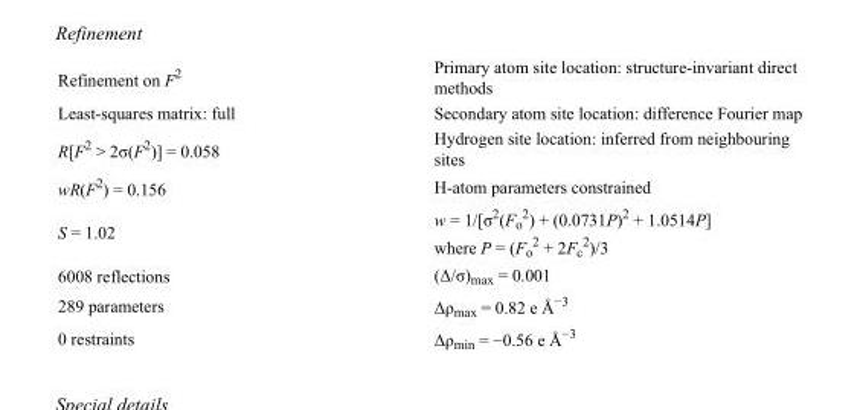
<table><tbody><tr><td>Refinement on F<sup>2</sup></td><td>Primary atom site location: structure-invariant direct methods</td></tr><tr><td>Least-squares matrix: full</td><td>Secondary atom site location: difference Fourier map</td></tr><tr><td>R[F<sup>2</sup> &gt; 2σ(F<sup>2</sup>)] = 0.058</td><td>Hydrogen site location: inferred from neighbouring sites</td></tr><tr><td>wR(F<sup>2</sup>) = 0.156</td><td>H-atom parameters constrained</td></tr><tr><td>S = 1.02</td><td>w = 1/[σ<sup>2</sup>(F<sub>o</sub> <sup>2</sup>) + (0.0731P)<sup>2</sup> + 1.0514P] where P = (F<sub>o</sub> <sup>2</sup> + 2F<sub>c</sub> <sup>2</sup>)/3</td></tr><tr><td>6008 reflections</td><td>(Δ/σ)<sub>max</sub> = 0.001</td></tr><tr><td>289 parameters</td><td>Δρ<sub>max</sub> = 0.82 e Å<sup>−3</sup></td></tr><tr><td>0 restraints</td><td>Δρ<sub>min</sub> = −0.56 e Å<sup>−3</sup></td></tr></tbody></table>